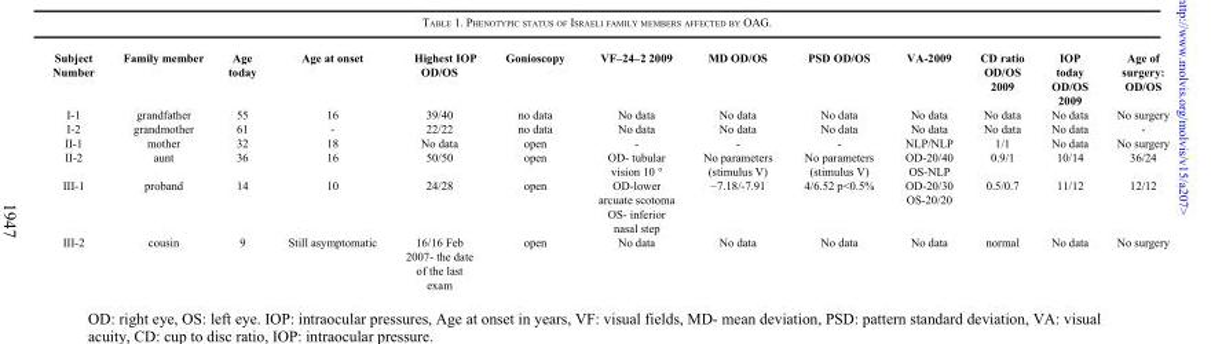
<table><thead><tr><td>Subject Number</td><td>Family member</td><td>Age today</td><td>Age at onset</td><td>Highest IOP OD/OS</td><td>Gonioscopy</td><td>VF–24–2 2009</td><td>MD OD/OS</td><td>PSD OD/OS</td><td>VA-2009</td><td>CD ratio OD/OS 2009</td><td>IOP today OD/OS 2009</td><td>Age of surgery: OD/OS</td></tr></thead><tbody><tr><td>I-1</td><td>grandfather</td><td>55</td><td>16</td><td>39/40</td><td>no data</td><td>No data</td><td>No data</td><td>No data</td><td>No data</td><td>No data</td><td>No data</td><td>No surgery</td></tr><tr><td>I-2</td><td>grandmother</td><td>61</td><td>-</td><td>22/22</td><td>no data</td><td>No data</td><td>No data</td><td>No data</td><td>No data</td><td>No data</td><td>No data</td><td>-</td></tr><tr><td>II-1</td><td>mother</td><td>32</td><td>18</td><td>No data</td><td>open</td><td>-</td><td>-</td><td>-</td><td>NLP/NLP</td><td>1/1</td><td>No data</td><td>No surgery</td></tr><tr><td>II-2</td><td>aunt</td><td>36</td><td>16</td><td>50/50</td><td>open</td><td>OD- tubular vision 10 °</td><td>No parameters (stimulus V)</td><td>No parameters (stimulus V)</td><td>OD-20/40 OS-NLP</td><td>0.9/1</td><td>10/14</td><td>36/24</td></tr><tr><td>III-1</td><td>proband</td><td>14</td><td>10</td><td>24/28</td><td>open</td><td>OD-lower arcuate scotoma OS- inferior nasal step</td><td>−7.18/-7.91</td><td>4/6.52 p&lt;0.5%</td><td>OD-20/30 OS-20/20</td><td>0.5/0.7</td><td>11/12</td><td>12/12</td></tr><tr><td>III-2</td><td>cousin</td><td>9</td><td>Still asymptomatic</td><td>16/16 Feb 2007- the date of the last exam</td><td>open</td><td>No data</td><td>No data</td><td>No data</td><td>No data</td><td>normal</td><td>No data</td><td>No surgery</td></tr></tbody></table>